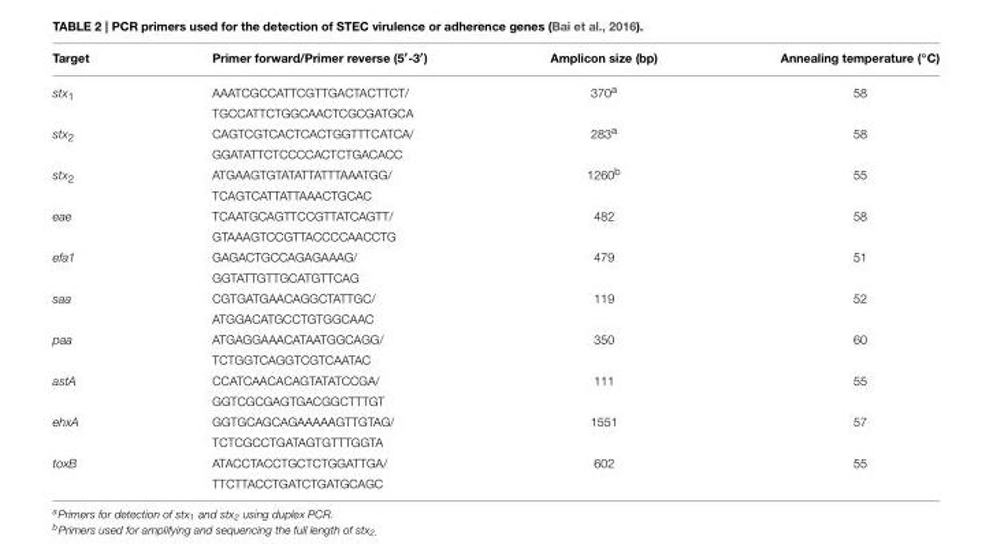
<table><thead><tr><td>Target</td><td>Primer forward/Primer reverse (5′-3′)</td><td>Amplicon size (bp)</td><td>Annealing temperature (◦C)</td></tr></thead><tbody><tr><td rowspan="2">stx<sub>1</sub></td><td>AAATCGCCATTCGTTGACTACTTCT/</td><td>370<sup>a</sup></td><td>58</td></tr><tr><td>TGCCATTCTGGCAACTCGCGATGCA</td><td></td><td></td></tr><tr><td rowspan="2">stx<sub>2</sub></td><td>CAGTCGTCACTCACTGGTTTCATCA/</td><td>283<sup>a</sup></td><td>58</td></tr><tr><td>GGATATTCTCCCCACTCTGACACC</td><td></td><td></td></tr><tr><td rowspan="2">stx<sub>2</sub></td><td>ATGAAGTGTATATTATTTAAATGG/</td><td>1260<sup>b</sup></td><td>55</td></tr><tr><td>TCAGTCATTATTAAACTGCAC</td><td></td><td></td></tr><tr><td rowspan="2">eae</td><td>TCAATGCAGTTCCGTTATCAGTT/</td><td>482</td><td>58</td></tr><tr><td>GTAAAGTCCGTTACCCCAACCTG</td><td></td><td></td></tr><tr><td rowspan="2">efa1</td><td>GAGACTGCCAGAGAAAG/</td><td>479</td><td>51</td></tr><tr><td>GGTATTGTTGCATGTTCAG</td><td></td><td></td></tr><tr><td rowspan="2">saa</td><td>CGTGATGAACAGGCTATTGC/</td><td>119</td><td>52</td></tr><tr><td>ATGGACATGCCTGTGGCAAC</td><td></td><td></td></tr><tr><td rowspan="2">paa</td><td>ATGAGGAAACATAATGGCAGG/</td><td>350</td><td>60</td></tr><tr><td>TCTGGTCAGGTCGTCAATAC</td><td></td><td></td></tr><tr><td rowspan="2">astA</td><td>CCATCAACACAGTATATCCGA/</td><td>111</td><td>55</td></tr><tr><td>GGTCGCGAGTGACGGCTTTGT</td><td></td><td></td></tr><tr><td rowspan="2">ehxA</td><td>GGTGCAGCAGAAAAAGTTGTAG/</td><td>1551</td><td>57</td></tr><tr><td>TCTCGCCTGATAGTGTTTGGTA</td><td></td><td></td></tr><tr><td rowspan="2">toxB</td><td>ATACCTACCTGCTCTGGATTGA/</td><td>602</td><td>55</td></tr><tr><td>TTCTTACCTGATCTGATGCAGC</td><td></td><td></td></tr></tbody></table>